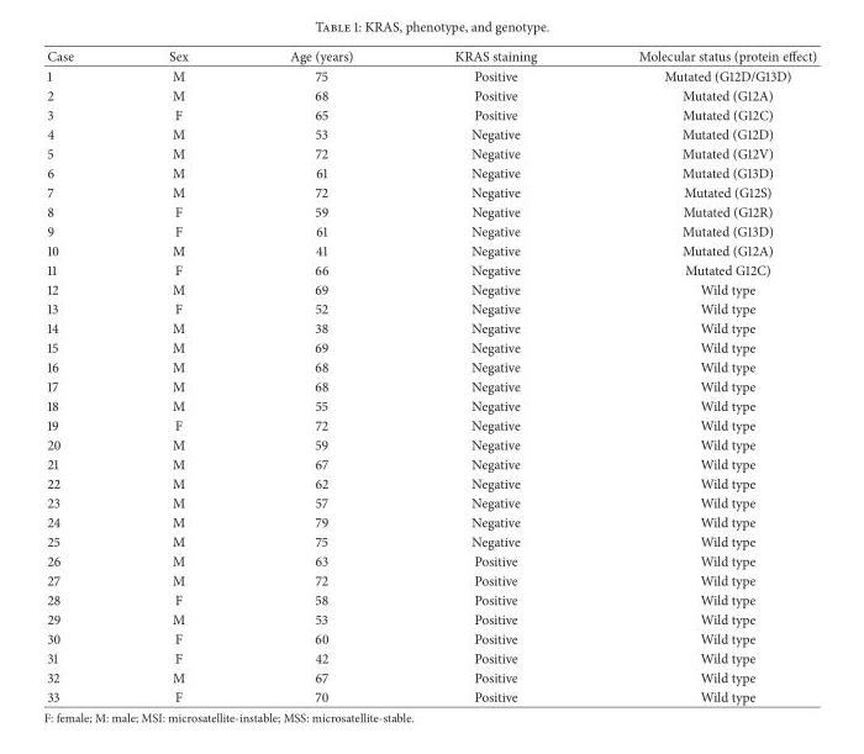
<table><thead><tr><td>Case</td><td>Sex</td><td>Age (years)</td><td>KRAS staining</td><td>Molecular status (protein effect)</td></tr></thead><tbody><tr><td>1</td><td>M</td><td>75</td><td>Positive</td><td>Mutated (G12D/G13D)</td></tr><tr><td>2</td><td>M</td><td>68</td><td>Positive</td><td>Mutated (G12A)</td></tr><tr><td>3</td><td>F</td><td>65</td><td>Positive</td><td>Mutated (G12C)</td></tr><tr><td>4</td><td>M</td><td>53</td><td>Negative</td><td>Mutated (G12D)</td></tr><tr><td>5</td><td>M</td><td>72</td><td>Negative</td><td>Mutated (G12V)</td></tr><tr><td>6</td><td>M</td><td>61</td><td>Negative</td><td>Mutated (G13D)</td></tr><tr><td>7</td><td>M</td><td>72</td><td>Negative</td><td>Mutated (G12S)</td></tr><tr><td>8</td><td>F</td><td>59</td><td>Negative</td><td>Mutated (G12R)</td></tr><tr><td>9</td><td>F</td><td>61</td><td>Negative</td><td>Mutated (G13D)</td></tr><tr><td>10</td><td>M</td><td>41</td><td>Negative</td><td>Mutated (G12A)</td></tr><tr><td>11</td><td>F</td><td>66</td><td>Negative</td><td>Mutated G12C)</td></tr><tr><td>12</td><td>M</td><td>69</td><td>Negative</td><td>Wild type</td></tr><tr><td>13</td><td>F</td><td>52</td><td>Negative</td><td>Wild type</td></tr><tr><td>14</td><td>M</td><td>38</td><td>Negative</td><td>Wild type</td></tr><tr><td>15</td><td>M</td><td>69</td><td>Negative</td><td>Wild type</td></tr><tr><td>16</td><td>M</td><td>68</td><td>Negative</td><td>Wild type</td></tr><tr><td>17</td><td>M</td><td>68</td><td>Negative</td><td>Wild type</td></tr><tr><td>18</td><td>M</td><td>55</td><td>Negative</td><td>Wild type</td></tr><tr><td>19</td><td>F</td><td>72</td><td>Negative</td><td>Wild type</td></tr><tr><td>20</td><td>M</td><td>59</td><td>Negative</td><td>Wild type</td></tr><tr><td>21</td><td>M</td><td>67</td><td>Negative</td><td>Wild type</td></tr><tr><td>22</td><td>M</td><td>62</td><td>Negative</td><td>Wild type</td></tr><tr><td>23</td><td>M</td><td>57</td><td>Negative</td><td>Wild type</td></tr><tr><td>24</td><td>M</td><td>79</td><td>Negative</td><td>Wild type</td></tr><tr><td>25</td><td>M</td><td>75</td><td>Negative</td><td>Wild type</td></tr><tr><td>26</td><td>M</td><td>63</td><td>Positive</td><td>Wild type</td></tr><tr><td>27</td><td>M</td><td>72</td><td>Positive</td><td>Wild type</td></tr><tr><td>28</td><td>F</td><td>58</td><td>Positive</td><td>Wild type</td></tr><tr><td>29</td><td>M</td><td>53</td><td>Positive</td><td>Wild type</td></tr><tr><td>30</td><td>F</td><td>60</td><td>Positive</td><td>Wild type</td></tr><tr><td>31</td><td>F</td><td>42</td><td>Positive</td><td>Wild type</td></tr><tr><td>32</td><td>M</td><td>67</td><td>Positive</td><td>Wild type</td></tr><tr><td>33</td><td>F</td><td>70</td><td>Positive</td><td>Wild type</td></tr></tbody></table>